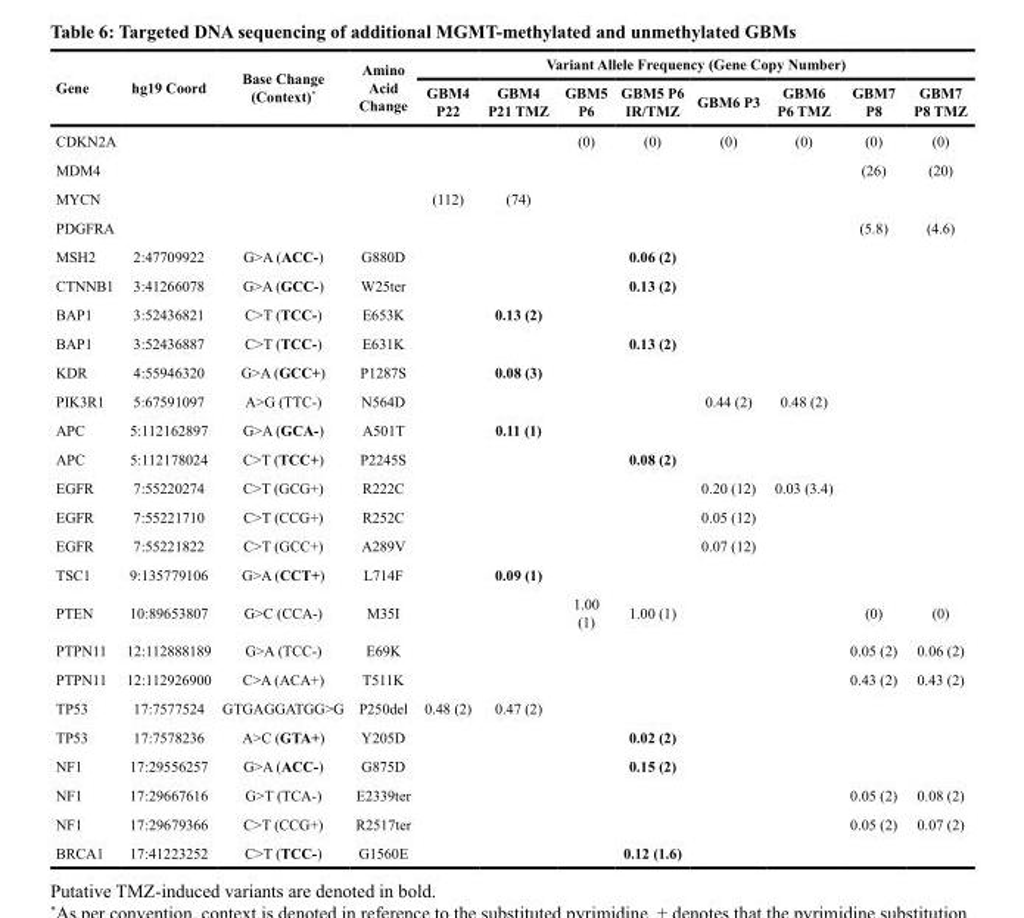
<table><thead><tr><td rowspan="2">Gene</td><td rowspan="2">hg19 Coord</td><td rowspan="2">Base Change (Context)*</td><td rowspan="2">Amino Acid Change</td><td colspan="8">Variant Allele Frequency (Gene Copy Number)</td></tr><tr><td>GBM4 P22</td><td>GBM4 P21 TMZ</td><td>GBM5 P6</td><td>GBM5 P6 IR/TMZ</td><td>GBM6 P3</td><td>GBM6 P6 TMZ</td><td>GBM7 P8</td><td>GBM7 P8 TMZ</td></tr></thead><tbody><tr><td>CDKN2A</td><td></td><td></td><td></td><td></td><td></td><td>(0)</td><td>(0)</td><td>(0)</td><td>(0)</td><td>(0)</td><td>(0)</td></tr><tr><td>MDM4</td><td></td><td></td><td></td><td></td><td></td><td></td><td></td><td></td><td></td><td>(26)</td><td>(20)</td></tr><tr><td>MYCN</td><td></td><td></td><td></td><td>(112)</td><td>(74)</td><td></td><td></td><td></td><td></td><td></td><td></td></tr><tr><td>PDGFRA</td><td></td><td></td><td></td><td></td><td></td><td></td><td></td><td></td><td></td><td>(5.8)</td><td>(4.6)</td></tr><tr><td>MSH2</td><td>2:47709922</td><td>G&gt;A (ACC-)</td><td>G880D</td><td></td><td></td><td></td><td>0.06 (2)</td><td></td><td></td><td></td><td></td></tr><tr><td>CTNNB1</td><td>3:41266078</td><td>G&gt;A (GCC-)</td><td>W25ter</td><td></td><td></td><td></td><td>0.13 (2)</td><td></td><td></td><td></td><td></td></tr><tr><td>BAP1</td><td>3:52436821</td><td>C&gt;T (TCC-)</td><td>E653K</td><td></td><td>0.13 (2)</td><td></td><td></td><td></td><td></td><td></td><td></td></tr><tr><td>BAP1</td><td>3:52436887</td><td>C&gt;T (TCC-)</td><td>E631K</td><td></td><td></td><td></td><td>0.13 (2)</td><td></td><td></td><td></td><td></td></tr><tr><td>KDR</td><td>4:55946320</td><td>G&gt;A (GCC+)</td><td>P1287S</td><td></td><td>0.08 (3)</td><td></td><td></td><td></td><td></td><td></td><td></td></tr><tr><td>PIK3R1</td><td>5:67591097</td><td>A&gt;G (TTC-)</td><td>N564D</td><td></td><td></td><td></td><td></td><td>0.44 (2)</td><td>0.48 (2)</td><td></td><td></td></tr><tr><td>APC</td><td>5:112162897</td><td>G&gt;A (GCA-)</td><td>A501T</td><td></td><td>0.11 (1)</td><td></td><td></td><td></td><td></td><td></td><td></td></tr><tr><td>APC</td><td>5:112178024</td><td>C&gt;T (TCC+)</td><td>P2245S</td><td></td><td></td><td></td><td>0.08 (2)</td><td></td><td></td><td></td><td></td></tr><tr><td>EGFR</td><td>7:55220274</td><td>C&gt;T (GCG+)</td><td>R222C</td><td></td><td></td><td></td><td></td><td>0.20 (12)</td><td>0.03 (3.4)</td><td></td><td></td></tr><tr><td>EGFR</td><td>7:55221710</td><td>C&gt;T (CCG+)</td><td>R252C</td><td></td><td></td><td></td><td></td><td>0.05 (12)</td><td></td><td></td><td></td></tr><tr><td>EGFR</td><td>7:55221822</td><td>C&gt;T (GCC+)</td><td>A289V</td><td></td><td></td><td></td><td></td><td>0.07 (12)</td><td></td><td></td><td></td></tr><tr><td>TSC1</td><td>9:135779106</td><td>G&gt;A (CCT+)</td><td>L714F</td><td></td><td>0.09 (1)</td><td></td><td></td><td></td><td></td><td></td><td></td></tr><tr><td>PTEN</td><td>10:89653807</td><td>G&gt;C (CCA-)</td><td>M35I</td><td></td><td></td><td>1.00 (1)</td><td>1.00 (1)</td><td></td><td></td><td>(0)</td><td>(0)</td></tr><tr><td>PTPN11</td><td>12:112888189</td><td>G&gt;A (TCC-)</td><td>E69K</td><td></td><td></td><td></td><td></td><td></td><td></td><td>0.05 (2)</td><td>0.06 (2)</td></tr><tr><td>PTPN11</td><td>12:112926900</td><td>C&gt;A (ACA+)</td><td>T511K</td><td></td><td></td><td></td><td></td><td></td><td></td><td>0.43 (2)</td><td>0.43 (2)</td></tr><tr><td>TP53</td><td>17:7577524</td><td>GTGAGGATGG&gt;G</td><td>P250del</td><td>0.48 (2)</td><td>0.47 (2)</td><td></td><td></td><td></td><td></td><td></td><td></td></tr><tr><td>TP53</td><td>17:7578236</td><td>A&gt;C (GTA+)</td><td>Y205D</td><td></td><td></td><td></td><td>0.02 (2)</td><td></td><td></td><td></td><td></td></tr><tr><td>NF1</td><td>17:29556257</td><td>G&gt;A (ACC-)</td><td>G875D</td><td></td><td></td><td></td><td>0.15 (2)</td><td></td><td></td><td></td><td></td></tr><tr><td>NF1</td><td>17:29667616</td><td>G&gt;T (TCA-)</td><td>E2339ter</td><td></td><td></td><td></td><td></td><td></td><td></td><td>0.05 (2)</td><td>0.08 (2)</td></tr><tr><td>NF1</td><td>17:29679366</td><td>C&gt;T (CCG+)</td><td>R2517ter</td><td></td><td></td><td></td><td></td><td></td><td></td><td>0.05 (2)</td><td>0.07 (2)</td></tr><tr><td>BRCA1</td><td>17:41223252</td><td>C&gt;T (TCC-)</td><td>G1560E</td><td></td><td></td><td></td><td>0.12 (1.6)</td><td></td><td></td><td></td><td></td></tr></tbody></table>